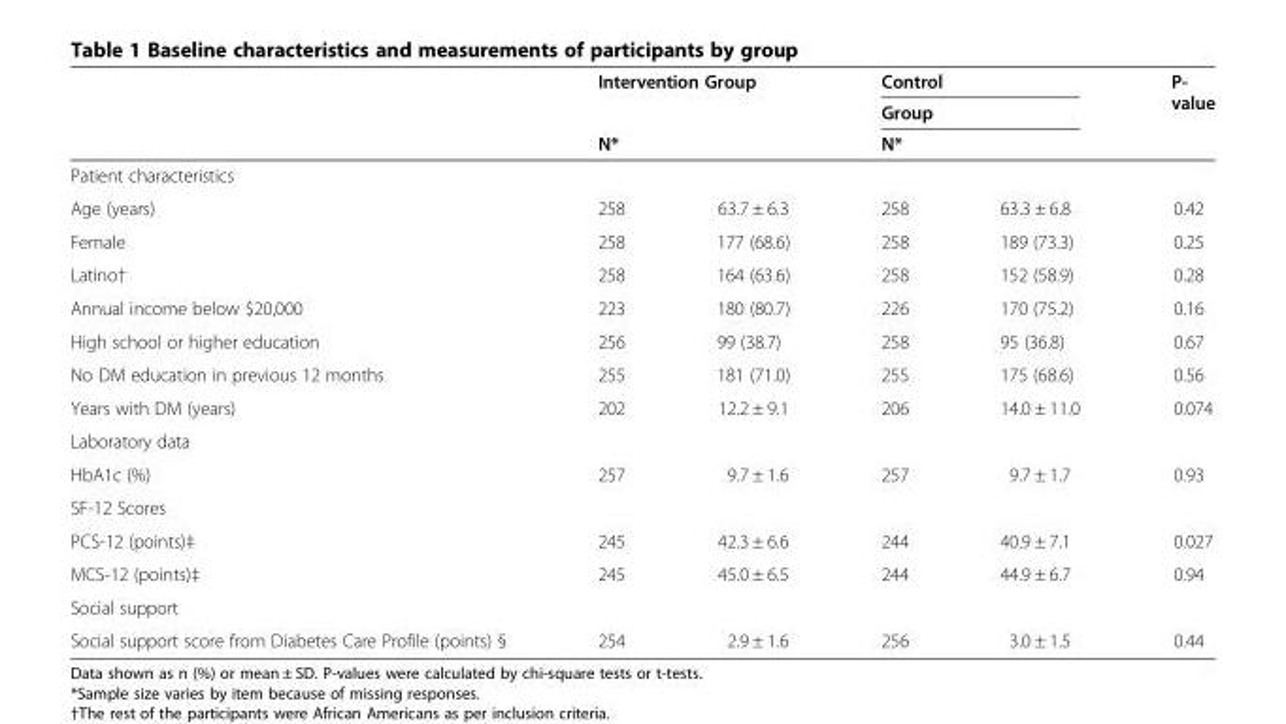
<table><thead><tr><td rowspan="3"></td><td rowspan="2" colspan="2">Intervention Group</td><td rowspan="2" colspan="2">Control Group</td><td rowspan="3">P- value</td></tr><tr></tr><tr><td>N*</td><td></td><td>N*</td><td></td></tr></thead><tbody><tr><td colspan="6">Patient characteristics</td></tr><tr><td>Age (years)</td><td>258</td><td>63.7 ± 6.3</td><td>258</td><td>63.3 ± 6.8</td><td>0.42</td></tr><tr><td>Female</td><td>258</td><td>177 (68.6)</td><td>258</td><td>189 (73.3)</td><td>0.25</td></tr><tr><td>Latino†</td><td>258</td><td>164 (63.6)</td><td>258</td><td>152 (58.9)</td><td>0.28</td></tr><tr><td>Annual income below $20,000</td><td>223</td><td>180 (80.7)</td><td>226</td><td>170 (75.2)</td><td>0.16</td></tr><tr><td>High school or higher education</td><td>256</td><td>99 (38.7)</td><td>258</td><td>95 (36.8)</td><td>0.67</td></tr><tr><td>No DM education in previous 12 months</td><td>255</td><td>181 (71.0)</td><td>255</td><td>175 (68.6)</td><td>0.56</td></tr><tr><td>Years with DM (years)</td><td>202</td><td>12.2 ± 9.1</td><td>206</td><td>14.0 ± 11.0</td><td>0.074</td></tr><tr><td colspan="6">Laboratory data</td></tr><tr><td>HbA1c (%)</td><td>257</td><td>9.7 ± 1.6</td><td>257</td><td>9.7 ± 1.7</td><td>0.93</td></tr><tr><td colspan="6">SF-12 Scores</td></tr><tr><td>PCS-12 (points)‡</td><td>245</td><td>42.3 ± 6.6</td><td>244</td><td>40.9 ± 7.1</td><td>0.027</td></tr><tr><td>MCS-12 (points)‡</td><td>245</td><td>45.0 ± 6.5</td><td>244</td><td>44.9 ± 6.7</td><td>0.94</td></tr><tr><td colspan="6">Social support</td></tr><tr><td>Social support score from Diabetes Care Profile (points) §</td><td>254</td><td>2.9 ± 1.6</td><td>256</td><td>3.0 ± 1.5</td><td>0.44</td></tr></tbody></table>